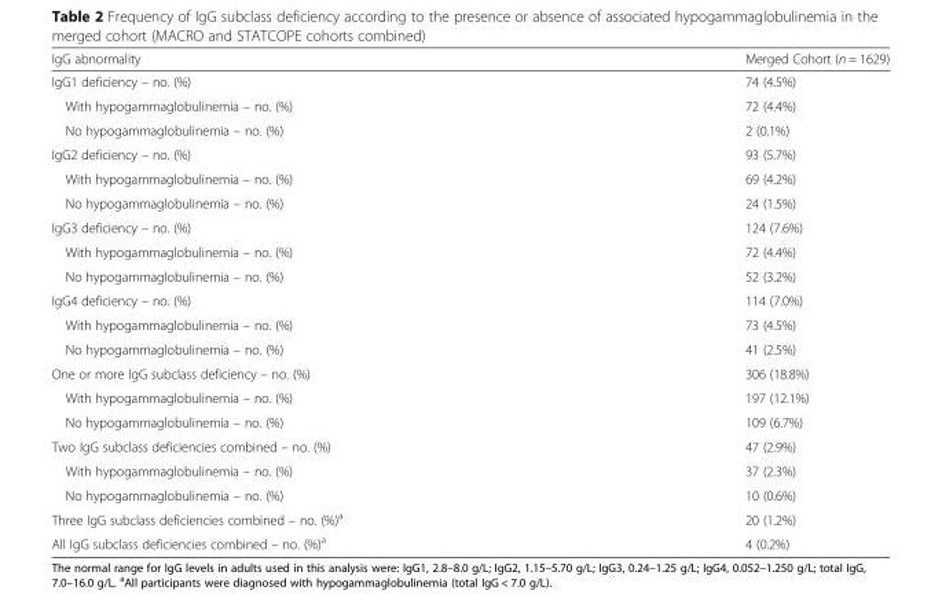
<table><thead><tr><td>IgG abnormality</td><td>Merged Cohort (n = 1629)</td></tr></thead><tbody><tr><td>IgG1 deficiency – no. (%)</td><td>74 (4.5%)</td></tr><tr><td>With hypogammaglobulinemia – no. (%)</td><td>72 (4.4%)</td></tr><tr><td>No hypogammaglobulinemia – no. (%)</td><td>2 (0.1%)</td></tr><tr><td>IgG2 deficiency – no. (%)</td><td>93 (5.7%)</td></tr><tr><td>With hypogammaglobulinemia – no. (%)</td><td>69 (4.2%)</td></tr><tr><td>No hypogammaglobulinemia – no. (%)</td><td>24 (1.5%)</td></tr><tr><td>IgG3 deficiency – no. (%)</td><td>124 (7.6%)</td></tr><tr><td>With hypogammaglobulinemia – no. (%)</td><td>72 (4.4%)</td></tr><tr><td>No hypogammaglobulinemia – no. (%)</td><td>52 (3.2%)</td></tr><tr><td>IgG4 deficiency – no. (%)</td><td>114 (7.0%)</td></tr><tr><td>With hypogammaglobulinemia – no. (%)</td><td>73 (4.5%)</td></tr><tr><td>No hypogammaglobulinemia – no. (%)</td><td>41 (2.5%)</td></tr><tr><td>One or more IgG subclass deficiency – no. (%)</td><td>306 (18.8%)</td></tr><tr><td>With hypogammaglobulinemia – no. (%)</td><td>197 (12.1%)</td></tr><tr><td>No hypogammaglobulinemia – no. (%)</td><td>109 (6.7%)</td></tr><tr><td>Two IgG subclass deficiencies combined – no. (%)</td><td>47 (2.9%)</td></tr><tr><td>With hypogammaglobulinemia – no. (%)</td><td>37 (2.3%)</td></tr><tr><td>No hypogammaglobulinemia – no. (%)</td><td>10 (0.6%)</td></tr><tr><td>Three IgG subclass deficiencies combined – no. (%)<sup>a</sup></td><td>20 (1.2%)</td></tr><tr><td>All IgG subclass deficiencies combined – no. (%)<sup>a</sup></td><td>4 (0.2%)</td></tr></tbody></table>